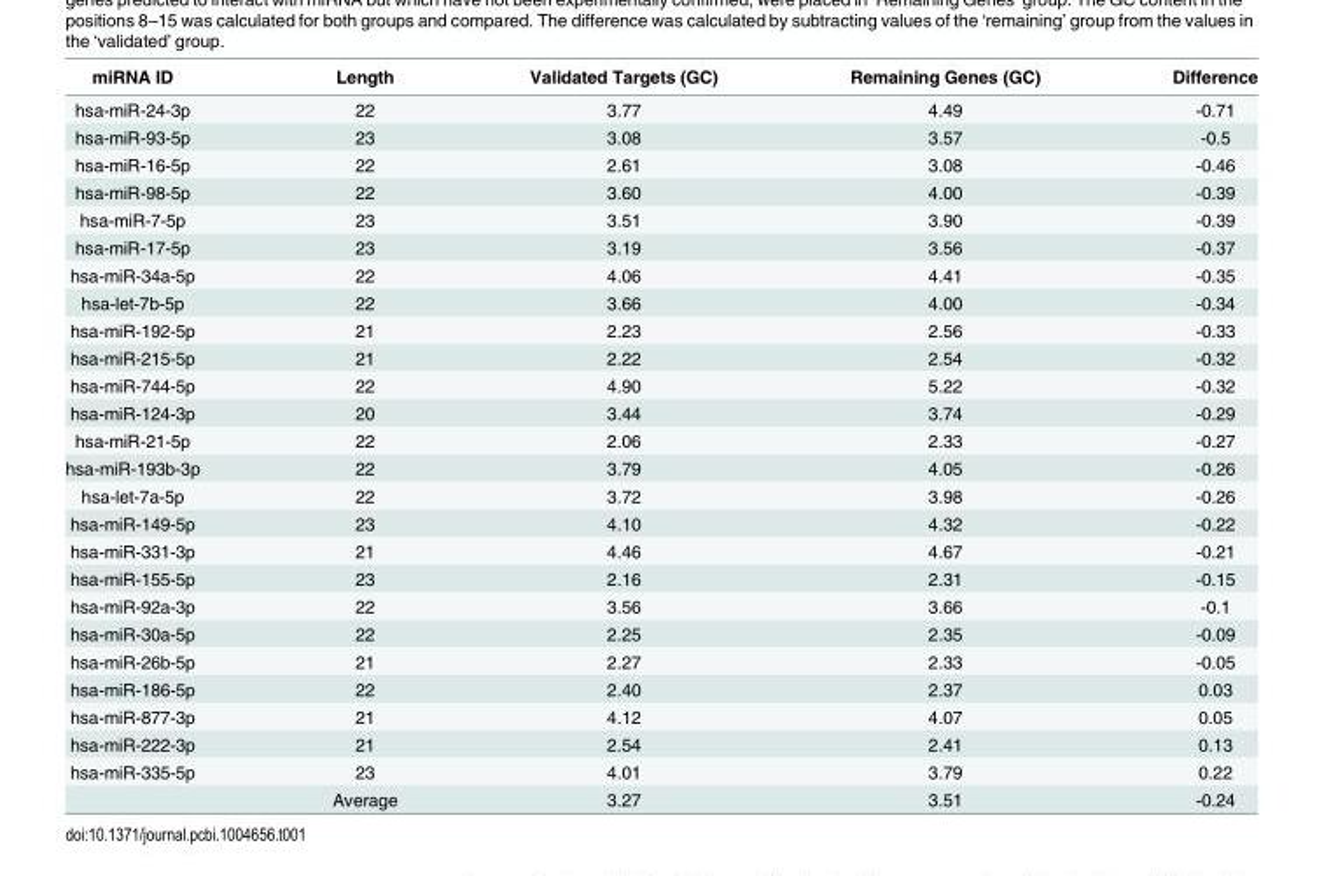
<table><thead><tr><td>miRNA ID</td><td>Length</td><td>Validated Targets (GC)</td><td>Remaining Genes (GC)</td><td>Difference</td></tr></thead><tbody><tr><td>hsa-miR-24-3p</td><td>22</td><td>3.77</td><td>4.49</td><td>-0.71</td></tr><tr><td>hsa-miR-93-5p</td><td>23</td><td>3.08</td><td>3.57</td><td>-0.5</td></tr><tr><td>hsa-miR-16-5p</td><td>22</td><td>2.61</td><td>3.08</td><td>-0.46</td></tr><tr><td>hsa-miR-98-5p</td><td>22</td><td>3.60</td><td>4.00</td><td>-0.39</td></tr><tr><td>hsa-miR-7-5p</td><td>23</td><td>3.51</td><td>3.90</td><td>-0.39</td></tr><tr><td>hsa-miR-17-5p</td><td>23</td><td>3.19</td><td>3.56</td><td>-0.37</td></tr><tr><td>hsa-miR-34a-5p</td><td>22</td><td>4.06</td><td>4.41</td><td>-0.35</td></tr><tr><td>hsa-let-7b-5p</td><td>22</td><td>3.66</td><td>4.00</td><td>-0.34</td></tr><tr><td>hsa-miR-192-5p</td><td>21</td><td>2.23</td><td>2.56</td><td>-0.33</td></tr><tr><td>hsa-miR-215-5p</td><td>21</td><td>2.22</td><td>2.54</td><td>-0.32</td></tr><tr><td>hsa-miR-744-5p</td><td>22</td><td>4.90</td><td>5.22</td><td>-0.32</td></tr><tr><td>hsa-miR-124-3p</td><td>20</td><td>3.44</td><td>3.74</td><td>-0.29</td></tr><tr><td>hsa-miR-21-5p</td><td>22</td><td>2.06</td><td>2.33</td><td>-0.27</td></tr><tr><td>hsa-miR-193b-3p</td><td>22</td><td>3.79</td><td>4.05</td><td>-0.26</td></tr><tr><td>hsa-let-7a-5p</td><td>22</td><td>3.72</td><td>3.98</td><td>-0.26</td></tr><tr><td>hsa-miR-149-5p</td><td>23</td><td>4.10</td><td>4.32</td><td>-0.22</td></tr><tr><td>hsa-miR-331-3p</td><td>21</td><td>4.46</td><td>4.67</td><td>-0.21</td></tr><tr><td>hsa-miR-155-5p</td><td>23</td><td>2.16</td><td>2.31</td><td>-0.15</td></tr><tr><td>hsa-miR-92a-3p</td><td>22</td><td>3.56</td><td>3.66</td><td>-0.1</td></tr><tr><td>hsa-miR-30a-5p</td><td>22</td><td>2.25</td><td>2.35</td><td>-0.09</td></tr><tr><td>hsa-miR-26b-5p</td><td>21</td><td>2.27</td><td>2.33</td><td>-0.05</td></tr><tr><td>hsa-miR-186-5p</td><td>22</td><td>2.40</td><td>2.37</td><td>0.03</td></tr><tr><td>hsa-miR-877-3p</td><td>21</td><td>4.12</td><td>4.07</td><td>0.05</td></tr><tr><td>hsa-miR-222-3p</td><td>21</td><td>2.54</td><td>2.41</td><td>0.13</td></tr><tr><td rowspan="2">hsa-miR-335-5p</td><td>23</td><td>4.01</td><td>3.79</td><td>0.22</td></tr><tr><td>Average</td><td>3.27</td><td>3.51</td><td>-0.24</td></tr></tbody></table>